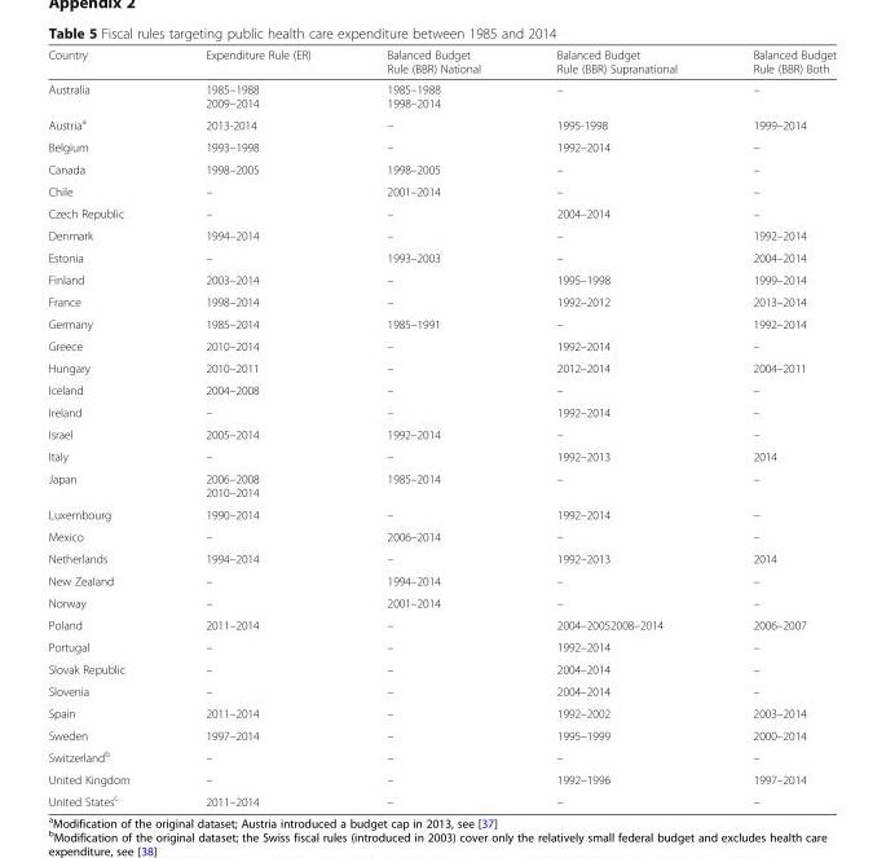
<table><thead><tr><td>Country</td><td>Expenditure Rule (ER)</td><td>Balanced Budget Rule (BBR) National</td><td>Balanced Budget Rule (BBR) Supranational</td><td>Balanced Budget Rule (BBR) Both</td></tr></thead><tbody><tr><td>Australia</td><td>1985–1988 2009–2014</td><td>1985–1988 1998–2014</td><td>–</td><td>–</td></tr><tr><td>Austria<sup>a</sup></td><td>2013-2014</td><td>–</td><td>1995-1998</td><td>1999–2014</td></tr><tr><td>Belgium</td><td>1993–1998</td><td>–</td><td>1992–2014</td><td>–</td></tr><tr><td>Canada</td><td>1998–2005</td><td>1998–2005</td><td>–</td><td>–</td></tr><tr><td>Chile</td><td>–</td><td>2001–2014</td><td>–</td><td>–</td></tr><tr><td>Czech Republic</td><td>–</td><td>–</td><td>2004–2014</td><td>–</td></tr><tr><td>Denmark</td><td>1994–2014</td><td>–</td><td>–</td><td>1992–2014</td></tr><tr><td>Estonia</td><td>–</td><td>1993–2003</td><td>–</td><td>2004–2014</td></tr><tr><td>Finland</td><td>2003–2014</td><td>–</td><td>1995–1998</td><td>1999–2014</td></tr><tr><td>France</td><td>1998–2014</td><td>–</td><td>1992–2012</td><td>2013–2014</td></tr><tr><td>Germany</td><td>1985–2014</td><td>1985–1991</td><td>–</td><td>1992–2014</td></tr><tr><td>Greece</td><td>2010–2014</td><td>–</td><td>1992–2014</td><td>–</td></tr><tr><td>Hungary</td><td>2010–2011</td><td>–</td><td>2012–2014</td><td>2004–2011</td></tr><tr><td>Iceland</td><td>2004–2008</td><td>–</td><td>–</td><td>–</td></tr><tr><td>Ireland</td><td>–</td><td>–</td><td>1992–2014</td><td>–</td></tr><tr><td>Israel</td><td>2005–2014</td><td>1992–2014</td><td>–</td><td>–</td></tr><tr><td>Italy</td><td>–</td><td>–</td><td>1992–2013</td><td>2014</td></tr><tr><td>Japan</td><td>2006–2008 2010–2014</td><td>1985–2014</td><td>–</td><td>–</td></tr><tr><td>Luxembourg</td><td>1990–2014</td><td>–</td><td>1992–2014</td><td>–</td></tr><tr><td>Mexico</td><td>–</td><td>2006–2014</td><td>–</td><td>–</td></tr><tr><td>Netherlands</td><td>1994–2014</td><td>–</td><td>1992–2013</td><td>2014</td></tr><tr><td>New Zealand</td><td>–</td><td>1994–2014</td><td>–</td><td>–</td></tr><tr><td>Norway</td><td>–</td><td>2001–2014</td><td>–</td><td>–</td></tr><tr><td>Poland</td><td>2011–2014</td><td>–</td><td>2004–20052008–2014</td><td>2006–2007</td></tr><tr><td>Portugal</td><td>–</td><td>–</td><td>1992–2014</td><td>–</td></tr><tr><td>Slovak Republic</td><td>–</td><td>–</td><td>2004–2014</td><td>–</td></tr><tr><td>Slovenia</td><td>–</td><td>–</td><td>2004–2014</td><td>–</td></tr><tr><td>Spain</td><td>2011–2014</td><td>–</td><td>1992–2002</td><td>2003–2014</td></tr><tr><td>Sweden</td><td>1997–2014</td><td>–</td><td>1995–1999</td><td>2000–2014</td></tr><tr><td>Switzerland<sup>b</sup></td><td>–</td><td>–</td><td>–</td><td>–</td></tr><tr><td>United Kingdom</td><td>–</td><td>–</td><td>1992–1996</td><td>1997–2014</td></tr><tr><td>United States<sup>c</sup></td><td>2011–2014</td><td>–</td><td>–</td><td>–</td></tr></tbody></table>